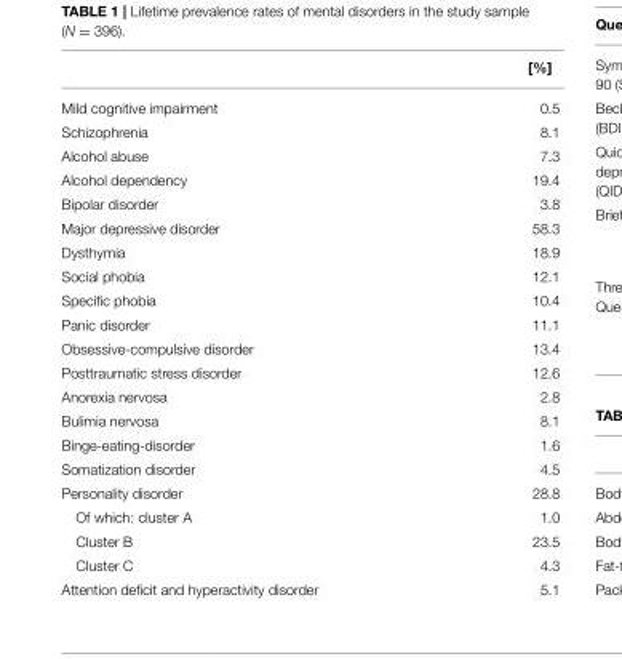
<table><thead><tr><td></td><td>[%]</td></tr></thead><tbody><tr><td>Mild cognitive impairment</td><td>0.5</td></tr><tr><td>Schizophrenia</td><td>8.1</td></tr><tr><td>Alcohol abuse</td><td>7.3</td></tr><tr><td>Alcohol dependency</td><td>19.4</td></tr><tr><td>Bipolar disorder</td><td>3.8</td></tr><tr><td>Major depressive disorder</td><td>58.3</td></tr><tr><td>Dysthymia</td><td>18.9</td></tr><tr><td>Social phobia</td><td>12.1</td></tr><tr><td>Specific phobia</td><td>10.4</td></tr><tr><td>Panic disorder</td><td>11.1</td></tr><tr><td>Obsessive-compulsive disorder</td><td>13.4</td></tr><tr><td>Posttraumatic stress disorder</td><td>12.6</td></tr><tr><td>Anorexia nervosa</td><td>2.8</td></tr><tr><td>Bulimia nervosa</td><td>8.1</td></tr><tr><td>Binge-eating-disorder</td><td>1.6</td></tr><tr><td>Somatization disorder</td><td>4.5</td></tr><tr><td>Personality disorder</td><td>28.8</td></tr><tr><td>Of which: cluster A</td><td>1.0</td></tr><tr><td>Cluster B</td><td>23.5</td></tr><tr><td>Cluster C</td><td>4.3</td></tr><tr><td>Attention deficit and hyperactivity disorder</td><td>5.1</td></tr></tbody></table>